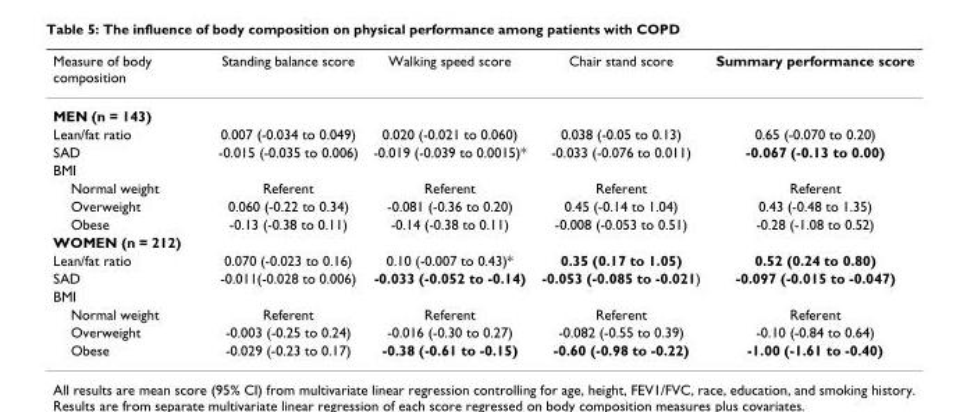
<table><thead><tr><td>Measure of body composition</td><td>Standing balance score</td><td>Walking speed score</td><td>Chair stand score</td><td>Summary performance score</td></tr></thead><tbody><tr><td colspan="5">MEN (n = 143)</td></tr><tr><td>Lean/fat ratio</td><td>0.007 (-0.034 to 0.049)</td><td>0.020 (-0.021 to 0.060)</td><td>0.038 (-0.05 to 0.13)</td><td>0.65 (-0.070 to 0.20)</td></tr><tr><td>SAD</td><td>-0.015 (-0.035 to 0.006)</td><td>-0.019 (-0.039 to 0.0015)*</td><td>-0.033 (-0.076 to 0.011)</td><td>-0.067 (-0.13 to 0.00)</td></tr><tr><td colspan="5">BMI</td></tr><tr><td>Normal weight</td><td>Referent</td><td>Referent</td><td>Referent</td><td>Referent</td></tr><tr><td>Overweight</td><td>0.060 (-0.22 to 0.34)</td><td>-0.081 (-0.36 to 0.20)</td><td>0.45 (-0.14 to 1.04)</td><td>0.43 (-0.48 to 1.35)</td></tr><tr><td>Obese</td><td>-0.13 (-0.38 to 0.11)</td><td>-0.14 (-0.38 to 0.11)</td><td>-0.008 (-0.053 to 0.51)</td><td>-0.28 (-1.08 to 0.52)</td></tr><tr><td colspan="5">WOMEN (n = 212)</td></tr><tr><td>Lean/fat ratio</td><td>0.070 (-0.023 to 0.16)</td><td>0.10 (-0.007 to 0.43)*</td><td>0.35 (0.17 to 1.05)</td><td>0.52 (0.24 to 0.80)</td></tr><tr><td>SAD</td><td>-0.011(-0.028 to 0.006)</td><td>-0.033 (-0.052 to -0.14)</td><td>-0.053 (-0.085 to -0.021)</td><td>-0.097 (-0.015 to -0.047)</td></tr><tr><td colspan="5">BMI</td></tr><tr><td>Normal weight</td><td>Referent</td><td>Referent</td><td>Referent</td><td>Referent</td></tr><tr><td>Overweight</td><td>-0.003 (-0.25 to 0.24)</td><td>-0.016 (-0.30 to 0.27)</td><td>-0.082 (-0.55 to 0.39)</td><td>-0.10 (-0.84 to 0.64)</td></tr><tr><td>Obese</td><td>-0.029 (-0.23 to 0.17)</td><td>-0.38 (-0.61 to -0.15)</td><td>-0.60 (-0.98 to -0.22)</td><td>-1.00 (-1.61 to -0.40)</td></tr></tbody></table>